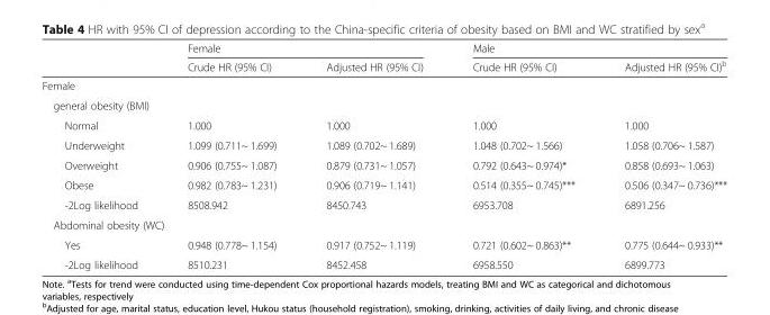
<table><thead><tr><td rowspan="2"></td><td colspan="2">Female</td><td colspan="2">Male</td></tr><tr><td>Crude HR (95% CI)</td><td>Adjusted HR (95% CI)</td><td>Crude HR (95% CI)</td><td>Adjusted HR (95% CI)<sup>b</sup></td></tr></thead><tbody><tr><td colspan="5">Female</td></tr><tr><td colspan="5">general obesity (BMI)</td></tr><tr><td>Normal</td><td>1.000</td><td>1.000</td><td>1.000</td><td>1.000</td></tr><tr><td>Underweight</td><td>1.099 (0.711~ 1.699)</td><td>1.089 (0.702~ 1.689)</td><td>1.048 (0.702~ 1.566)</td><td>1.058 (0.706~ 1.587)</td></tr><tr><td>Overweight</td><td>0.906 (0.755~ 1.087)</td><td>0.879 (0.731~ 1.057)</td><td>0.792 (0.643~ 0.974)*</td><td>0.858 (0.693~ 1.063)</td></tr><tr><td>Obese</td><td>0.982 (0.783~ 1.231)</td><td>0.906 (0.719~ 1.141)</td><td>0.514 (0.355~ 0.745)***</td><td>0.506 (0.347~ 0.736)***</td></tr><tr><td>-2Log likelihood</td><td>8508.942</td><td>8450.743</td><td>6953.708</td><td>6891.256</td></tr><tr><td colspan="5">Abdominal obesity (WC)</td></tr><tr><td>Yes</td><td>0.948 (0.778~ 1.154)</td><td>0.917 (0.752~ 1.119)</td><td>0.721 (0.602~ 0.863)**</td><td>0.775 (0.644~ 0.933)**</td></tr><tr><td>-2Log likelihood</td><td>8510.231</td><td>8452.458</td><td>6958.550</td><td>6899.773</td></tr></tbody></table>